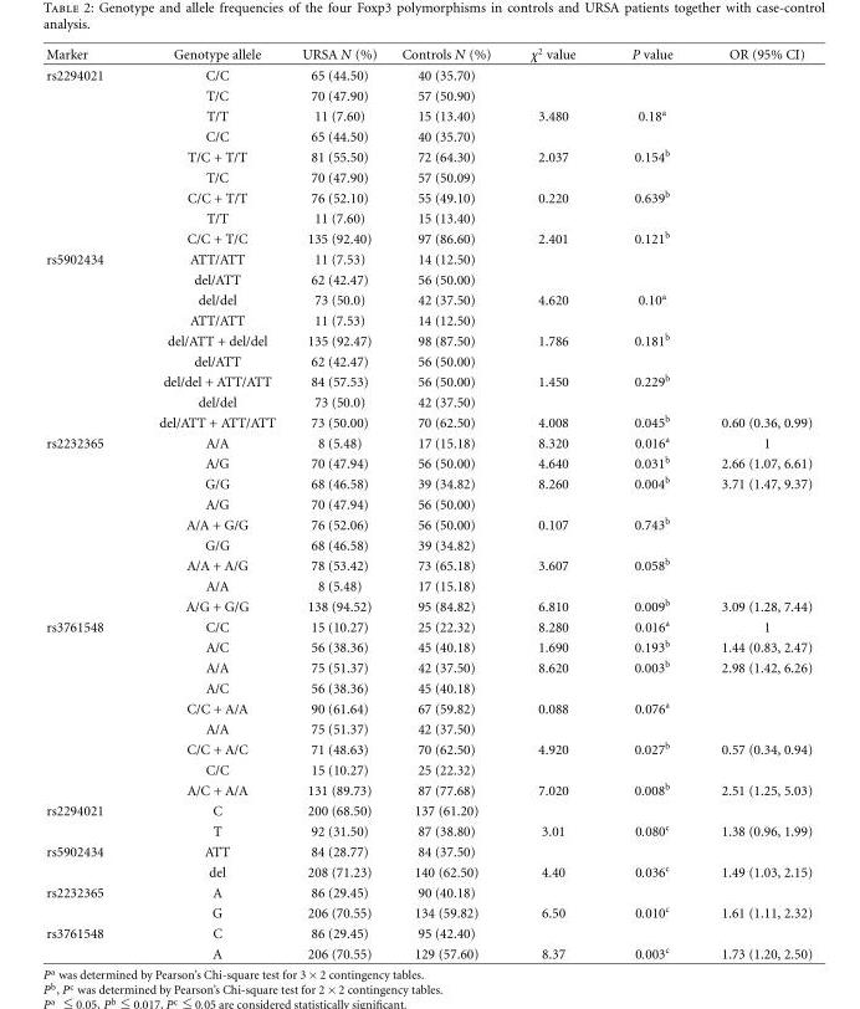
<table><thead><tr><td>Marker</td><td>Genotype allele</td><td>URSA N (%)</td><td>Controls N (%)</td><td>χ<sup>2</sup> value</td><td>P value</td><td>OR (95% CI)</td></tr></thead><tbody><tr><td rowspan="9">rs2294021</td><td>C/C</td><td>65 (44.50)</td><td>40 (35.70)</td><td></td><td></td><td></td></tr><tr><td>T/C</td><td>70 (47.90)</td><td>57 (50.90)</td><td></td><td></td><td></td></tr><tr><td>T/T</td><td>11 (7.60)</td><td>15 (13.40)</td><td>3.480</td><td>0.18<sup>a</sup></td><td></td></tr><tr><td>C/C</td><td>65 (44.50)</td><td>40 (35.70)</td><td></td><td></td><td></td></tr><tr><td>T/C + T/T</td><td>81 (55.50)</td><td>72 (64.30)</td><td>2.037</td><td>0.154<sup>b</sup></td><td></td></tr><tr><td>T/C</td><td>70 (47.90)</td><td>57 (50.09)</td><td></td><td></td><td></td></tr><tr><td>C/C + T/T</td><td>76 (52.10)</td><td>55 (49.10)</td><td>0.220</td><td>0.639<sup>b</sup></td><td></td></tr><tr><td>T/T</td><td>11 (7.60)</td><td>15 (13.40)</td><td></td><td></td><td></td></tr><tr><td>C/C + T/C</td><td>135 (92.40)</td><td>97 (86.60)</td><td>2.401</td><td>0.121<sup>b</sup></td><td></td></tr><tr><td rowspan="9">rs5902434</td><td>ATT/ATT</td><td>11 (7.53)</td><td>14 (12.50)</td><td></td><td></td><td></td></tr><tr><td>del/ATT</td><td>62 (42.47)</td><td>56 (50.00)</td><td></td><td></td><td></td></tr><tr><td>del/del</td><td>73 (50.0)</td><td>42 (37.50)</td><td>4.620</td><td>0.10<sup>a</sup></td><td></td></tr><tr><td>ATT/ATT</td><td>11 (7.53)</td><td>14 (12.50)</td><td></td><td></td><td></td></tr><tr><td>del/ATT + del/del</td><td>135 (92.47)</td><td>98 (87.50)</td><td>1.786</td><td>0.181<sup>b</sup></td><td></td></tr><tr><td>del/ATT</td><td>62 (42.47)</td><td>56 (50.00)</td><td></td><td></td><td></td></tr><tr><td>del/del + ATT/ATT</td><td>84 (57.53)</td><td>56 (50.00)</td><td>1.450</td><td>0.229<sup>b</sup></td><td></td></tr><tr><td>del/del</td><td>73 (50.0)</td><td>42 (37.50)</td><td></td><td></td><td></td></tr><tr><td>del/ATT + ATT/ATT</td><td>73 (50.00)</td><td>70 (62.50)</td><td>4.008</td><td>0.045<sup>b</sup></td><td>0.60 (0.36, 0.99)</td></tr><tr><td rowspan="9">rs2232365</td><td>A/A</td><td>8 (5.48)</td><td>17 (15.18)</td><td>8.320</td><td>0.016<sup>a</sup></td><td>1</td></tr><tr><td>A/G</td><td>70 (47.94)</td><td>56 (50.00)</td><td>4.640</td><td>0.031<sup>b</sup></td><td>2.66 (1.07, 6.61)</td></tr><tr><td>G/G</td><td>68 (46.58)</td><td>39 (34.82)</td><td>8.260</td><td>0.004<sup>b</sup></td><td>3.71 (1.47, 9.37)</td></tr><tr><td>A/G</td><td>70 (47.94)</td><td>56 (50.00)</td><td></td><td></td><td></td></tr><tr><td>A/A + G/G</td><td>76 (52.06)</td><td>56 (50.00)</td><td>0.107</td><td>0.743<sup>b</sup></td><td></td></tr><tr><td>G/G</td><td>68 (46.58)</td><td>39 (34.82)</td><td></td><td></td><td></td></tr><tr><td>A/A + A/G</td><td>78 (53.42)</td><td>73 (65.18)</td><td>3.607</td><td>0.058<sup>b</sup></td><td></td></tr><tr><td>A/A</td><td>8 (5.48)</td><td>17 (15.18)</td><td></td><td></td><td></td></tr><tr><td>A/G + G/G</td><td>138 (94.52)</td><td>95 (84.82)</td><td>6.810</td><td>0.009<sup>b</sup></td><td>3.09 (1.28, 7.44)</td></tr><tr><td rowspan="9">rs3761548</td><td>C/C</td><td>15 (10.27)</td><td>25 (22.32)</td><td>8.280</td><td>0.016<sup>a</sup></td><td>1</td></tr><tr><td>A/C</td><td>56 (38.36)</td><td>45 (40.18)</td><td>1.690</td><td>0.193<sup>b</sup></td><td>1.44 (0.83, 2.47)</td></tr><tr><td>A/A</td><td>75 (51.37)</td><td>42 (37.50)</td><td>8.620</td><td>0.003<sup>b</sup></td><td>2.98 (1.42, 6.26)</td></tr><tr><td>A/C</td><td>56 (38.36)</td><td>45 (40.18)</td><td></td><td></td><td></td></tr><tr><td>C/C + A/A</td><td>90 (61.64)</td><td>67 (59.82)</td><td>0.088</td><td>0.076<sup>a</sup></td><td></td></tr><tr><td>A/A</td><td>75 (51.37)</td><td>42 (37.50)</td><td></td><td></td><td></td></tr><tr><td>C/C + A/C</td><td>71 (48.63)</td><td>70 (62.50)</td><td>4.920</td><td>0.027<sup>b</sup></td><td>0.57 (0.34, 0.94)</td></tr><tr><td>C/C</td><td>15 (10.27)</td><td>25 (22.32)</td><td></td><td></td><td></td></tr><tr><td>A/C + A/A</td><td>131 (89.73)</td><td>87 (77.68)</td><td>7.020</td><td>0.008<sup>b</sup></td><td>2.51 (1.25, 5.03)</td></tr><tr><td rowspan="2">rs2294021</td><td>C</td><td>200 (68.50)</td><td>137 (61.20)</td><td></td><td></td><td></td></tr><tr><td>T</td><td>92 (31.50)</td><td>87 (38.80)</td><td>3.01</td><td>0.080<sup>c</sup></td><td>1.38 (0.96, 1.99)</td></tr><tr><td rowspan="2">rs5902434</td><td>ATT</td><td>84 (28.77)</td><td>84 (37.50)</td><td></td><td></td><td></td></tr><tr><td>del</td><td>208 (71.23)</td><td>140 (62.50)</td><td>4.40</td><td>0.036<sup>c</sup></td><td>1.49 (1.03, 2.15)</td></tr><tr><td rowspan="2">rs2232365</td><td>A</td><td>86 (29.45)</td><td>90 (40.18)</td><td></td><td></td><td></td></tr><tr><td>G</td><td>206 (70.55)</td><td>134 (59.82)</td><td>6.50</td><td>0.010<sup>c</sup></td><td>1.61 (1.11, 2.32)</td></tr><tr><td rowspan="2">rs3761548</td><td>C</td><td>86 (29.45)</td><td>95 (42.40)</td><td></td><td></td><td></td></tr><tr><td>A</td><td>206 (70.55)</td><td>129 (57.60)</td><td>8.37</td><td>0.003<sup>c</sup></td><td>1.73 (1.20, 2.50)</td></tr></tbody></table>